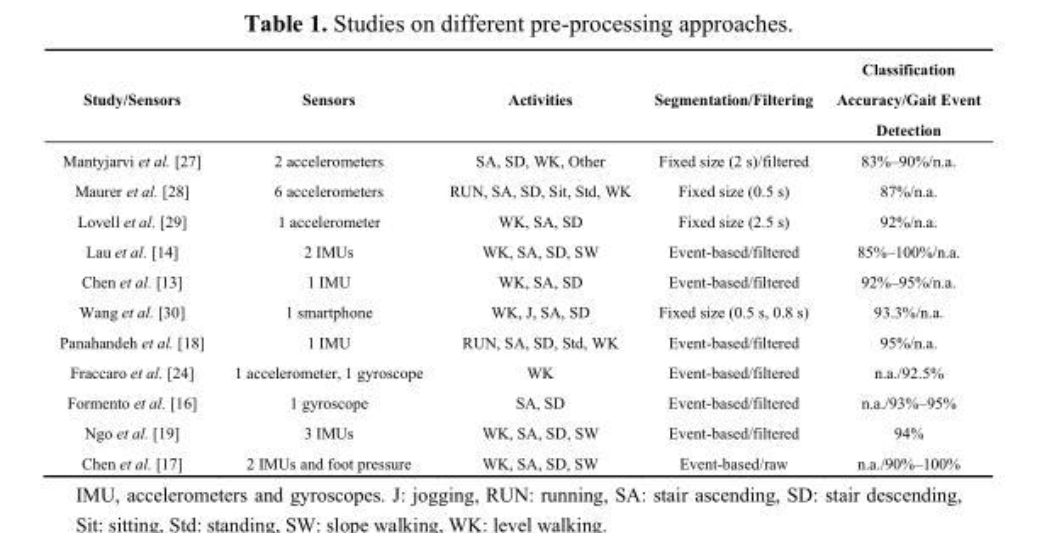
<table><thead><tr><td>Study/Sensors</td><td>Sensors</td><td>Activities</td><td>Segmentation/Filtering</td><td>Classification Accuracy/Gait Event Detection</td></tr></thead><tbody><tr><td>Mantyjarvi et al. [27]</td><td>2 accelerometers</td><td>SA, SD, WK, Other</td><td>Fixed size (2 s)/filtered</td><td>83%–90%/n.a.</td></tr><tr><td>Maurer et al. [28]</td><td>6 accelerometers</td><td>RUN, SA, SD, Sit, Std, WK</td><td>Fixed size (0.5 s)</td><td>87%/n.a.</td></tr><tr><td>Lovell et al. [29]</td><td>1 accelerometer</td><td>WK, SA, SD</td><td>Fixed size (2.5 s)</td><td>92%/n.a.</td></tr><tr><td>Lau et al. [14]</td><td>2 IMUs</td><td>WK, SA, SD, SW</td><td>Event-based/filtered</td><td>85%–100%/n.a.</td></tr><tr><td>Chen et al. [13]</td><td>1 IMU</td><td>WK, SA, SD</td><td>Event-based/filtered</td><td>92%–95%/n.a.</td></tr><tr><td>Wang et al. [30]</td><td>1 smartphone</td><td>WK, J, SA, SD</td><td>Fixed size (0.5 s, 0.8 s)</td><td>93.3%/n.a.</td></tr><tr><td>Panahandeh et al. [18]</td><td>1 IMU</td><td>RUN, SA, SD, Std, WK</td><td>Event-based/filtered</td><td>95%/n.a.</td></tr><tr><td>Fraccaro et al. [24]</td><td>1 accelerometer, 1 gyroscope</td><td>WK</td><td>Event-based/filtered</td><td>n.a./92.5%</td></tr><tr><td>Formento et al. [16]</td><td>1 gyroscope</td><td>SA, SD</td><td>Event-based/filtered</td><td>n.a./93%–95%</td></tr><tr><td>Ngo et al. [19]</td><td>3 IMUs</td><td>WK, SA, SD, SW</td><td>Event-based/filtered</td><td>94%</td></tr><tr><td>Chen et al. [17]</td><td>2 IMUs and foot pressure</td><td>WK, SA, SD, SW</td><td>Event-based/raw</td><td>n.a./90%–100%</td></tr></tbody></table>